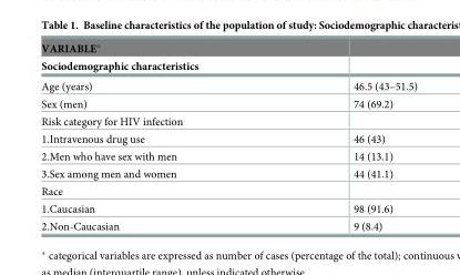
<table><thead><tr><td rowspan="2">VARIABLE* Sociodemographic characteristics</td><td rowspan="2"></td></tr><tr></tr></thead><tbody><tr><td>Age (years)</td><td>46.5 (43–51.5)</td></tr><tr><td>Sex (men)</td><td>74 (69.2)</td></tr><tr><td colspan="2">Risk category for HIV infection</td></tr><tr><td>1.Intravenous drug use</td><td>46 (43)</td></tr><tr><td>2.Men who have sex with men</td><td>14 (13.1)</td></tr><tr><td>3.Sex among men and women</td><td>44 (41.1)</td></tr><tr><td colspan="2">Race</td></tr><tr><td>1.Caucasian</td><td>98 (91.6)</td></tr><tr><td>2.Non-Caucasian</td><td>9 (8.4)</td></tr></tbody></table>